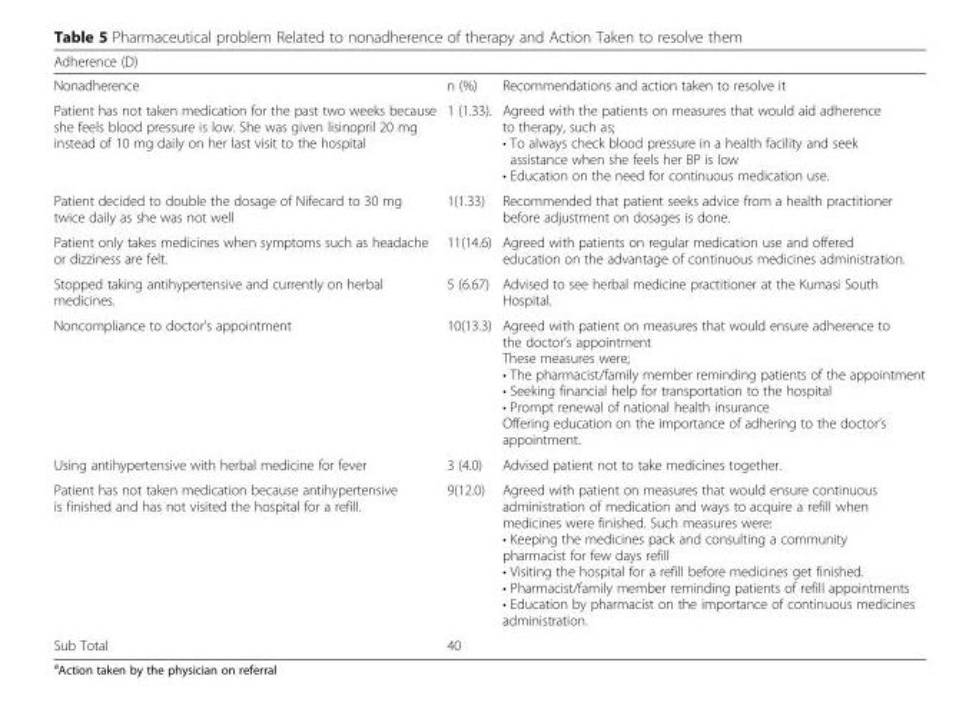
<table><thead><tr><td>Adherence (D)</td><td></td><td></td></tr></thead><tbody><tr><td>Nonadherence</td><td>n (%)</td><td>Recommendations and action taken to resolve it</td></tr><tr><td>Patient has not taken medication for the past two weeks because she feels blood pressure is low. She was given lisinopril 20 mg instead of 10 mg daily on her last visit to the hospital</td><td>1 (1.33).</td><td>Agreed with the patients on measures that would aid adherence to therapy, such as; • To always check blood pressure in a health facility and seek assistance when she feels her BP is low • Education on the need for continuous medication use.</td></tr><tr><td>Patient decided to double the dosage of Nifecard to 30 mg twice daily as she was not well</td><td>1(1.33)</td><td>Recommended that patient seeks advice from a health practitioner before adjustment on dosages is done.</td></tr><tr><td>Patient only takes medicines when symptoms such as headache or dizziness are felt.</td><td>11(14.6)</td><td>Agreed with patients on regular medication use and offered education on the advantage of continuous medicines administration.</td></tr><tr><td>Stopped taking antihypertensive and currently on herbal medicines.</td><td>5 (6.67)</td><td>Advised to see herbal medicine practitioner at the Kumasi South Hospital.</td></tr><tr><td>Noncompliance to doctor’s appointment</td><td>10(13.3)</td><td>Agreed with patient on measures that would ensure adherence to the doctor’s appointment These measures were; • The pharmacist/family member reminding patients of the appointment • Seeking financial help for transportation to the hospital • Prompt renewal of national health insurance Offering education on the importance of adhering to the doctor’s appointment.</td></tr><tr><td>Using antihypertensive with herbal medicine for fever</td><td>3 (4.0)</td><td>Advised patient not to take medicines together.</td></tr><tr><td>Patient has not taken medication because antihypertensive is finished and has not visited the hospital for a refill.</td><td>9(12.0)</td><td>Agreed with patient on measures that would ensure continuous administration of medication and ways to acquire a refill when medicines were finished. Such measures were: • Keeping the medicines pack and consulting a community pharmacist for few days refill • Visiting the hospital for a refill before medicines get finished. • Pharmacist/family member reminding patients of refill appointments • Education by pharmacist on the importance of continuous medicines administration.</td></tr><tr><td>Sub Total</td><td>40</td><td></td></tr></tbody></table>